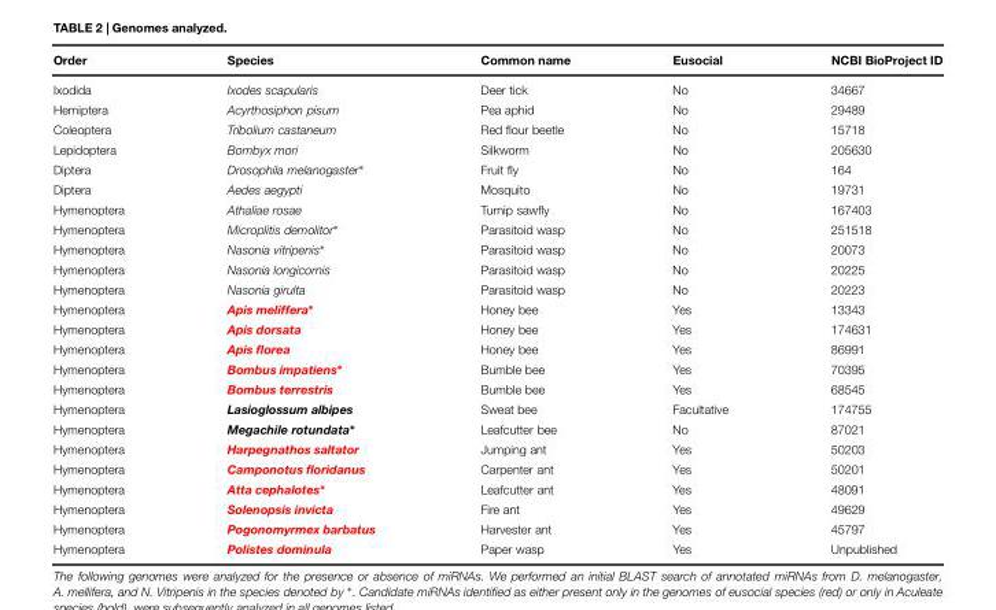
<table><thead><tr><td>Order</td><td>Species</td><td>Common name</td><td>Eusocial</td><td>NCBI BioProject ID</td></tr></thead><tbody><tr><td>Ixodida</td><td>Ixodes scapularis</td><td>Deer tick</td><td>No</td><td>34667</td></tr><tr><td>Hemiptera</td><td>Acyrthosiphon pisum</td><td>Pea aphid</td><td>No</td><td>29489</td></tr><tr><td>Coleoptera</td><td>Tribolium castaneum</td><td>Red flour beetle</td><td>No</td><td>15718</td></tr><tr><td>Lepidoptera</td><td>Bombyx mori</td><td>Silkworm</td><td>No</td><td>205630</td></tr><tr><td>Diptera</td><td>Drosophila melanogaster∗</td><td>Fruit fly</td><td>No</td><td>164</td></tr><tr><td>Diptera</td><td>Aedes aegypti</td><td>Mosquito</td><td>No</td><td>19731</td></tr><tr><td>Hymenoptera</td><td>Athaliae rosae</td><td>Turnip sawfly</td><td>No</td><td>167403</td></tr><tr><td>Hymenoptera</td><td>Microplitis demolitor∗</td><td>Parasitoid wasp</td><td>No</td><td>251518</td></tr><tr><td>Hymenoptera</td><td>Nasonia vitripenis∗</td><td>Parasitoid wasp</td><td>No</td><td>20073</td></tr><tr><td>Hymenoptera</td><td>Nasonia longicornis</td><td>Parasitoid wasp</td><td>No</td><td>20225</td></tr><tr><td>Hymenoptera</td><td>Nasonia girulta</td><td>Parasitoid wasp</td><td>No</td><td>20223</td></tr><tr><td>Hymenoptera</td><td>Apis meliffera∗</td><td>Honey bee</td><td>Yes</td><td>13343</td></tr><tr><td>Hymenoptera</td><td>Apis dorsata</td><td>Honey bee</td><td>Yes</td><td>174631</td></tr><tr><td>Hymenoptera</td><td>Apis florea</td><td>Honey bee</td><td>Yes</td><td>86991</td></tr><tr><td>Hymenoptera</td><td>Bombus impatiens∗</td><td>Bumble bee</td><td>Yes</td><td>70395</td></tr><tr><td>Hymenoptera</td><td>Bombus terrestris</td><td>Bumble bee</td><td>Yes</td><td>68545</td></tr><tr><td>Hymenoptera</td><td>Lasioglossum albipes</td><td>Sweat bee</td><td>Facultative</td><td>174755</td></tr><tr><td>Hymenoptera</td><td>Megachile rotundata∗</td><td>Leafcutter bee</td><td>No</td><td>87021</td></tr><tr><td>Hymenoptera</td><td>Harpegnathos saltator</td><td>Jumping ant</td><td>Yes</td><td>50203</td></tr><tr><td>Hymenoptera</td><td>Camponotus floridanus</td><td>Carpenter ant</td><td>Yes</td><td>50201</td></tr><tr><td>Hymenoptera</td><td>Atta cephalotes∗</td><td>Leafcutter ant</td><td>Yes</td><td>48091</td></tr><tr><td>Hymenoptera</td><td>Solenopsis invicta</td><td>Fire ant</td><td>Yes</td><td>49629</td></tr><tr><td>Hymenoptera</td><td>Pogonomyrmex barbatus</td><td>Harvester ant</td><td>Yes</td><td>45797</td></tr><tr><td>Hymenoptera</td><td>Polistes dominula</td><td>Paper wasp</td><td>Yes</td><td>Unpublished</td></tr></tbody></table>